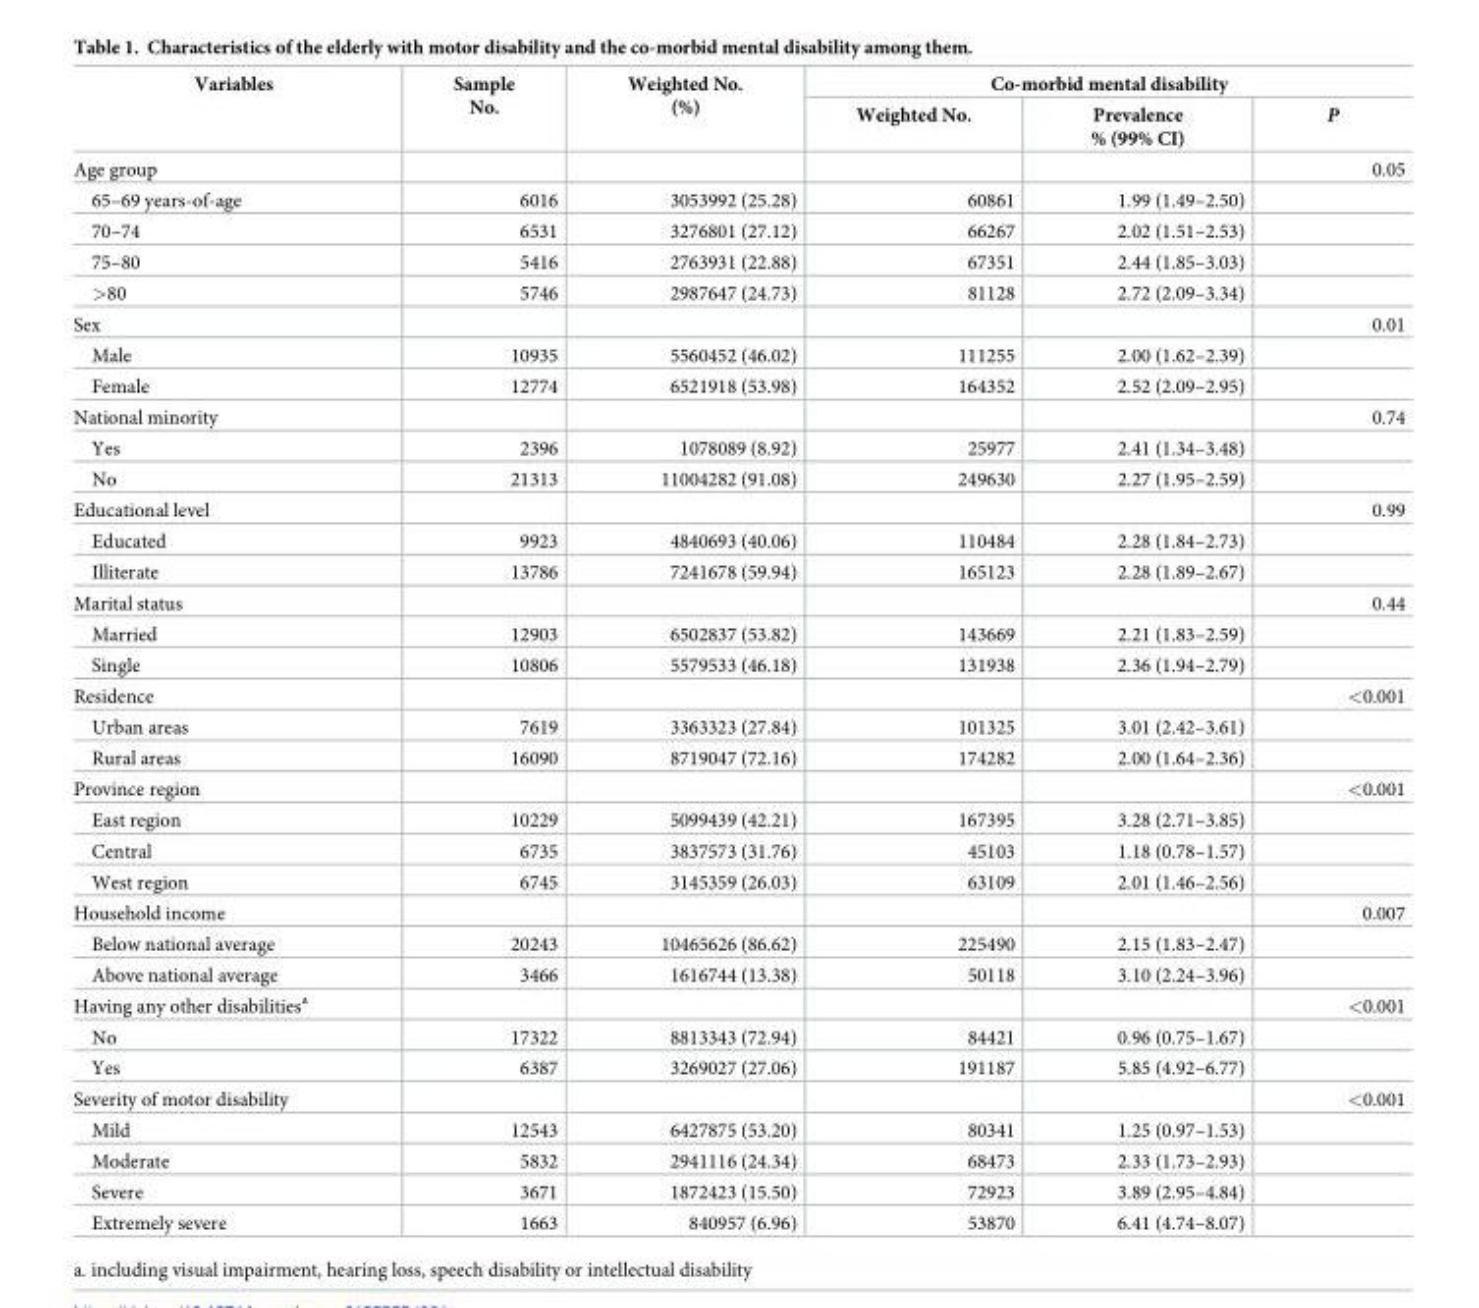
<table><thead><tr><td rowspan="2">Variables</td><td rowspan="2">Sample No.</td><td rowspan="2">Weighted No. (%)</td><td colspan="3">Co-morbid mental disability</td></tr><tr><td>Weighted No.</td><td>Prevalence % (99% CI)</td><td>P</td></tr></thead><tbody><tr><td>Age group</td><td></td><td></td><td></td><td></td><td>0.05</td></tr><tr><td>65–69 years-of-age</td><td>6016</td><td>3053992 (25.28)</td><td>60861</td><td>1.99 (1.49–2.50)</td><td></td></tr><tr><td>70–74</td><td>6531</td><td>3276801 (27.12)</td><td>66267</td><td>2.02 (1.51–2.53)</td><td></td></tr><tr><td>75–80</td><td>5416</td><td>2763931 (22.88)</td><td>67351</td><td>2.44 (1.85–3.03)</td><td></td></tr><tr><td>&gt;80</td><td>5746</td><td>2987647 (24.73)</td><td>81128</td><td>2.72 (2.09–3.34)</td><td></td></tr><tr><td>Sex</td><td></td><td></td><td></td><td></td><td>0.01</td></tr><tr><td>Male</td><td>10935</td><td>5560452 (46.02)</td><td>111255</td><td>2.00 (1.62–2.39)</td><td></td></tr><tr><td>Female</td><td>12774</td><td>6521918 (53.98)</td><td>164352</td><td>2.52 (2.09–2.95)</td><td></td></tr><tr><td>National minority</td><td></td><td></td><td></td><td></td><td>0.74</td></tr><tr><td>Yes</td><td>2396</td><td>1078089 (8.92)</td><td>25977</td><td>2.41 (1.34–3.48)</td><td></td></tr><tr><td>No</td><td>21313</td><td>11004282 (91.08)</td><td>249630</td><td>2.27 (1.95–2.59)</td><td></td></tr><tr><td>Educational level</td><td></td><td></td><td></td><td></td><td>0.99</td></tr><tr><td>Educated</td><td>9923</td><td>4840693 (40.06)</td><td>110484</td><td>2.28 (1.84–2.73)</td><td></td></tr><tr><td>Illiterate</td><td>13786</td><td>7241678 (59.94)</td><td>165123</td><td>2.28 (1.89–2.67)</td><td></td></tr><tr><td>Marital status</td><td></td><td></td><td></td><td></td><td>0.44</td></tr><tr><td>Married</td><td>12903</td><td>6502837 (53.82)</td><td>143669</td><td>2.21 (1.83–2.59)</td><td></td></tr><tr><td>Single</td><td>10806</td><td>5579533 (46.18)</td><td>131938</td><td>2.36 (1.94–2.79)</td><td></td></tr><tr><td>Residence</td><td></td><td></td><td></td><td></td><td>&lt;0.001</td></tr><tr><td>Urban areas</td><td>7619</td><td>3363323 (27.84)</td><td>101325</td><td>3.01 (2.42–3.61)</td><td></td></tr><tr><td>Rural areas</td><td>16090</td><td>8719047 (72.16)</td><td>174282</td><td>2.00 (1.64–2.36)</td><td></td></tr><tr><td>Province region</td><td></td><td></td><td></td><td></td><td>&lt;0.001</td></tr><tr><td>East region</td><td>10229</td><td>5099439 (42.21)</td><td>167395</td><td>3.28 (2.71–3.85)</td><td></td></tr><tr><td>Central</td><td>6735</td><td>3837573 (31.76)</td><td>45103</td><td>1.18 (0.78–1.57)</td><td></td></tr><tr><td>West region</td><td>6745</td><td>3145359 (26.03)</td><td>63109</td><td>2.01 (1.46–2.56)</td><td></td></tr><tr><td>Household income</td><td></td><td></td><td></td><td></td><td>0.007</td></tr><tr><td>Below national average</td><td>20243</td><td>10465626 (86.62)</td><td>225490</td><td>2.15 (1.83–2.47)</td><td></td></tr><tr><td>Above national average</td><td>3466</td><td>1616744 (13.38)</td><td>50118</td><td>3.10 (2.24–3.96)</td><td></td></tr><tr><td>Having any other disabilities<sup>a</sup></td><td></td><td></td><td></td><td></td><td>&lt;0.001</td></tr><tr><td>No</td><td>17322</td><td>8813343 (72.94)</td><td>84421</td><td>0.96 (0.75–1.67)</td><td></td></tr><tr><td>Yes</td><td>6387</td><td>3269027 (27.06)</td><td>191187</td><td>5.85 (4.92–6.77)</td><td></td></tr><tr><td>Severity of motor disability</td><td></td><td></td><td></td><td></td><td>&lt;0.001</td></tr><tr><td>Mild</td><td>12543</td><td>6427875 (53.20)</td><td>80341</td><td>1.25 (0.97–1.53)</td><td></td></tr><tr><td>Moderate</td><td>5832</td><td>2941116 (24.34)</td><td>68473</td><td>2.33 (1.73–2.93)</td><td></td></tr><tr><td>Severe</td><td>3671</td><td>1872423 (15.50)</td><td>72923</td><td>3.89 (2.95–4.84)</td><td></td></tr><tr><td>Extremely severe</td><td>1663</td><td>840957 (6.96)</td><td>53870</td><td>6.41 (4.74–8.07)</td><td></td></tr></tbody></table>